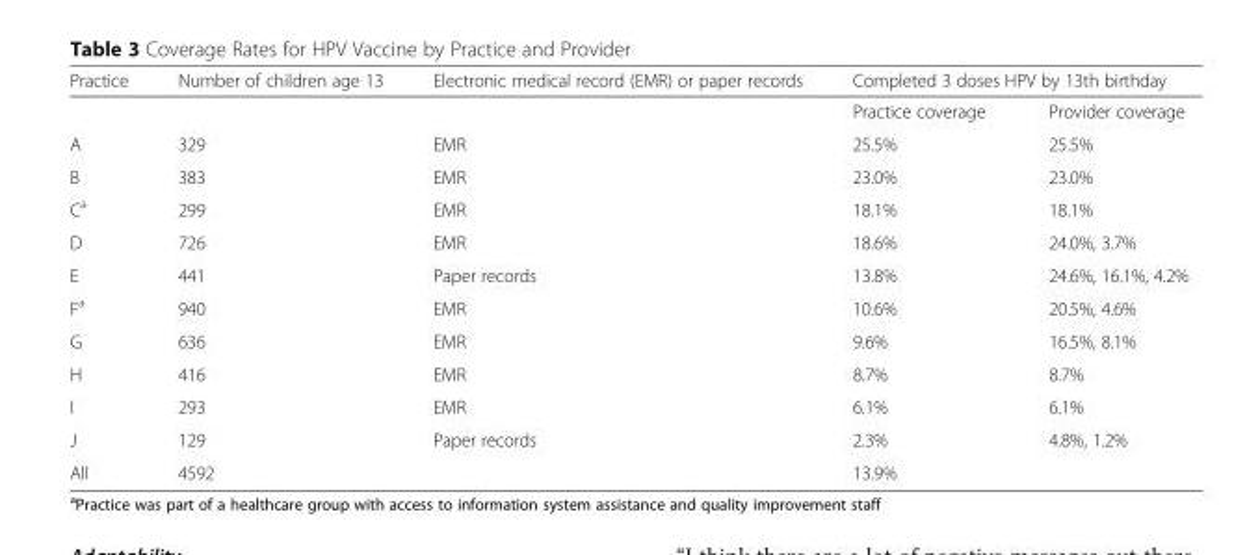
<table><thead><tr><td rowspan="2">Practice</td><td rowspan="2">Number of children age 13</td><td rowspan="2">Electronic medical record (EMR) or paper records</td><td colspan="2">Completed 3 doses HPV by 13th birthday</td></tr><tr><td>Practice coverage</td><td>Provider coverage</td></tr></thead><tbody><tr><td>A</td><td>329</td><td>EMR</td><td>25.5%</td><td>25.5%</td></tr><tr><td>B</td><td>383</td><td>EMR</td><td>23.0%</td><td>23.0%</td></tr><tr><td>C<sup>a</sup></td><td>299</td><td>EMR</td><td>18.1%</td><td>18.1%</td></tr><tr><td>D</td><td>726</td><td>EMR</td><td>18.6%</td><td>24.0%, 3.7%</td></tr><tr><td>E</td><td>441</td><td>Paper records</td><td>13.8%</td><td>24.6%, 16.1%, 4.2%</td></tr><tr><td>F<sup>a</sup></td><td>940</td><td>EMR</td><td>10.6%</td><td>20.5%, 4.6%</td></tr><tr><td>G</td><td>636</td><td>EMR</td><td>9.6%</td><td>16.5%, 8.1%</td></tr><tr><td>H</td><td>416</td><td>EMR</td><td>8.7%</td><td>8.7%</td></tr><tr><td>I</td><td>293</td><td>EMR</td><td>6.1%</td><td>6.1%</td></tr><tr><td>J</td><td>129</td><td>Paper records</td><td>2.3%</td><td>4.8%, 1.2%</td></tr><tr><td>All</td><td>4592</td><td></td><td>13.9%</td><td></td></tr></tbody></table>